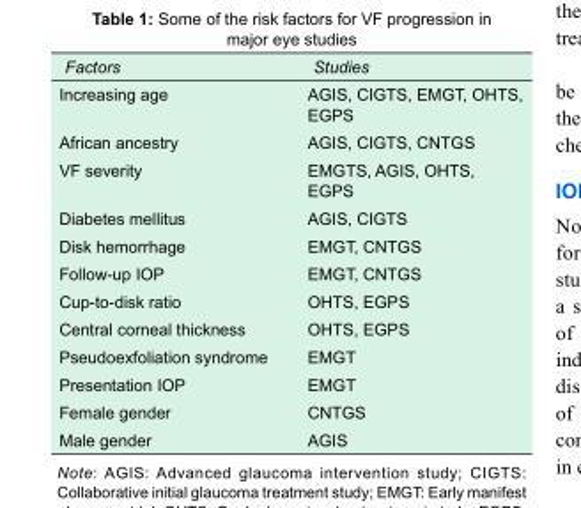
<table><tbody><tr><td>Factors</td><td>Studies</td></tr><tr><td>Increasing age</td><td>AGIS, CIGTS, EMGT, OHTS, EGPS</td></tr><tr><td>African ancestry</td><td>AGIS, CIGTS, CNTGS</td></tr><tr><td>VF severity</td><td>EMGTS, AGIS, OHTS, EGPS</td></tr><tr><td>Diabetes mellitus</td><td>AGIS, CIGTS</td></tr><tr><td>Disk hemorrhage</td><td>EMGT, CNTGS</td></tr><tr><td>Follow-up IOP</td><td>EMGT, CNTGS</td></tr><tr><td>Cup-to-disk ratio</td><td>OHTS, EGPS</td></tr><tr><td>Central corneal thickness</td><td>OHTS, EGPS</td></tr><tr><td>Pseudoexfoliation syndrome</td><td>EMGT</td></tr><tr><td>Presentation IOP</td><td>EMGT</td></tr><tr><td>Female gender</td><td>CNTGS</td></tr><tr><td>Male gender</td><td>AGIS</td></tr></tbody></table>